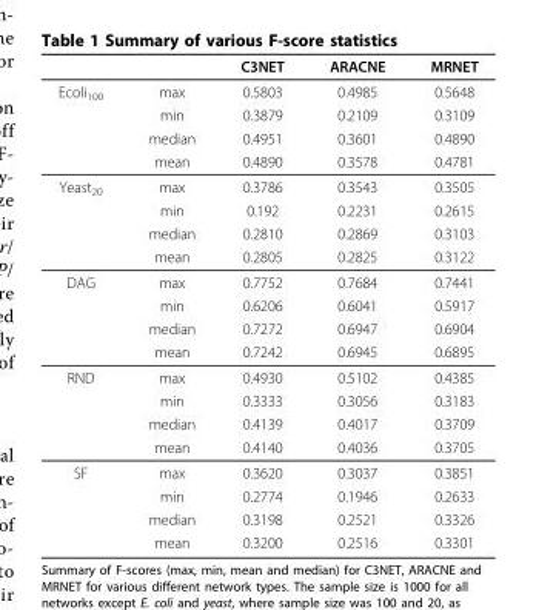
<table><thead><tr><td></td><td></td><td>C3NET</td><td>ARACNE</td><td>MRNET</td></tr></thead><tbody><tr><td rowspan="4">Ecoli<sub>100</sub></td><td>max</td><td>0.5803</td><td>0.4985</td><td>0.5648</td></tr><tr><td>min</td><td>0.3879</td><td>0.2109</td><td>0.3109</td></tr><tr><td>median</td><td>0.4951</td><td>0.3601</td><td>0.4890</td></tr><tr><td>mean</td><td>0.4890</td><td>0.3578</td><td>0.4781</td></tr><tr><td rowspan="4">Yeast<sub>20</sub></td><td>max</td><td>0.3786</td><td>0.3543</td><td>0.3505</td></tr><tr><td>min</td><td>0.192</td><td>0.2231</td><td>0.2615</td></tr><tr><td>median</td><td>0.2810</td><td>0.2869</td><td>0.3103</td></tr><tr><td>mean</td><td>0.2805</td><td>0.2825</td><td>0.3122</td></tr><tr><td rowspan="4">DAG</td><td>max</td><td>0.7752</td><td>0.7684</td><td>0.7441</td></tr><tr><td>min</td><td>0.6206</td><td>0.6041</td><td>0.5917</td></tr><tr><td>median</td><td>0.7272</td><td>0.6947</td><td>0.6904</td></tr><tr><td>mean</td><td>0.7242</td><td>0.6945</td><td>0.6895</td></tr><tr><td rowspan="4">RND</td><td>max</td><td>0.4930</td><td>0.5102</td><td>0.4385</td></tr><tr><td>min</td><td>0.3333</td><td>0.3056</td><td>0.3183</td></tr><tr><td>median</td><td>0.4139</td><td>0.4017</td><td>0.3709</td></tr><tr><td>mean</td><td>0.4140</td><td>0.4036</td><td>0.3705</td></tr><tr><td rowspan="4">SF</td><td>max</td><td>0.3620</td><td>0.3037</td><td>0.3851</td></tr><tr><td>min</td><td>0.2774</td><td>0.1946</td><td>0.2633</td></tr><tr><td>median</td><td>0.3198</td><td>0.2521</td><td>0.3326</td></tr><tr><td>mean</td><td>0.3200</td><td>0.2516</td><td>0.3301</td></tr></tbody></table>